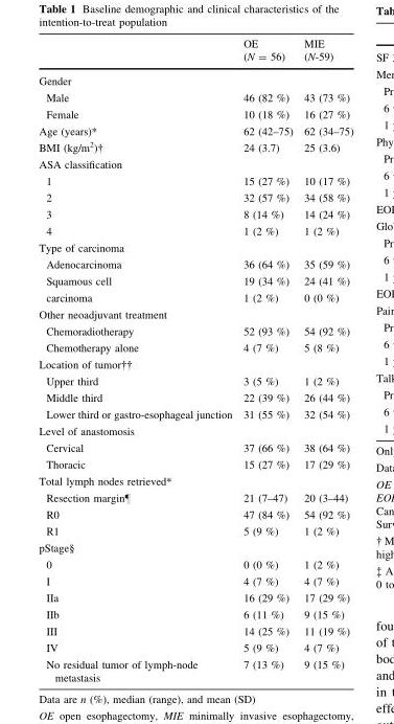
<table><thead><tr><td></td><td>OE (N = 56)</td><td>MIE (N-59)</td></tr></thead><tbody><tr><td colspan="3">Gender</td></tr><tr><td>Male</td><td>46 (82 %)</td><td>43 (73 %)</td></tr><tr><td>Female</td><td>10 (18 %)</td><td>16 (27 %)</td></tr><tr><td>Age (years)*</td><td>62 (42–75)</td><td>62 (34–75)</td></tr><tr><td>BMI (kg/m<sup>2</sup>)†</td><td>24 (3.7)</td><td>25 (3.6)</td></tr><tr><td colspan="3">ASA classification</td></tr><tr><td>1</td><td>15 (27 %)</td><td>10 (17 %)</td></tr><tr><td>2</td><td>32 (57 %)</td><td>34 (58 %)</td></tr><tr><td>3</td><td>8 (14 %)</td><td>14 (24 %)</td></tr><tr><td>4</td><td>1 (2 %)</td><td>1 (2 %)</td></tr><tr><td colspan="3">Type of carcinoma</td></tr><tr><td>Adenocarcinoma</td><td>36 (64 %)</td><td>35 (59 %)</td></tr><tr><td>Squamous cell</td><td>19 (34 %)</td><td>24 (41 %)</td></tr><tr><td>carcinoma</td><td>1 (2 %)</td><td>0 (0 %)</td></tr><tr><td colspan="3">Other neoadjuvant treatment</td></tr><tr><td>Chemoradiotherapy</td><td>52 (93 %)</td><td>54 (92 %)</td></tr><tr><td>Chemotherapy alone</td><td>4 (7 %)</td><td>5 (8 %)</td></tr><tr><td colspan="3">Location of tumor††</td></tr><tr><td>Upper third</td><td>3 (5 %)</td><td>1 (2 %)</td></tr><tr><td>Middle third</td><td>22 (39 %)</td><td>26 (44 %)</td></tr><tr><td>Lower third or gastro-esophageal junction</td><td>31 (55 %)</td><td>32 (54 %)</td></tr><tr><td colspan="3">Level of anastomosis</td></tr><tr><td>Cervical</td><td>37 (66 %)</td><td>38 (64 %)</td></tr><tr><td>Thoracic</td><td>15 (27 %)</td><td>17 (29 %)</td></tr><tr><td colspan="3">Total lymph nodes retrieved*</td></tr><tr><td>Resection margin¶</td><td>21 (7–47)</td><td>20 (3–44)</td></tr><tr><td>R0</td><td>47 (84 %)</td><td>54 (92 %)</td></tr><tr><td>R1</td><td>5 (9 %)</td><td>1 (2 %)</td></tr><tr><td colspan="3">pStage§</td></tr><tr><td>0</td><td>0 (0 %)</td><td>1 (2 %)</td></tr><tr><td>I</td><td>4 (7 %)</td><td>4 (7 %)</td></tr><tr><td>IIa</td><td>16 (29 %)</td><td>17 (29 %)</td></tr><tr><td>IIb</td><td>6 (11 %)</td><td>9 (15 %)</td></tr><tr><td>III</td><td>14 (25 %)</td><td>11 (19 %)</td></tr><tr><td>IV</td><td>5 (9 %)</td><td>4 (7 %)</td></tr><tr><td>No residual tumor of lymph-node metastasis</td><td>7 (13 %)</td><td>9 (15 %)</td></tr></tbody></table>